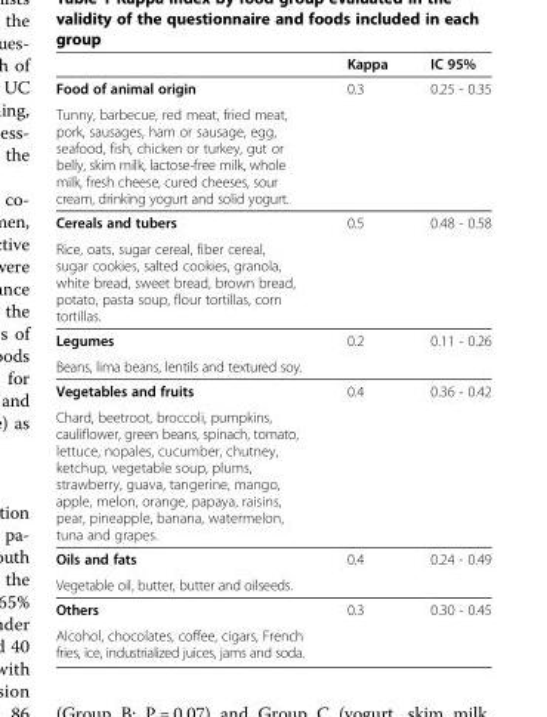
<table><thead><tr><td></td><td>Kappa</td><td>IC 95%</td></tr></thead><tbody><tr><td>Food of animal origin</td><td>0.3</td><td>0.25 - 0.35</td></tr><tr><td colspan="3">Tunny, barbecue, red meat, fried meat, pork, sausages, ham or sausage, egg, seafood, fish, chicken or turkey, gut or belly, skim milk, lactose-free milk, whole milk, fresh cheese, cured cheeses, sour cream, drinking yogurt and solid yogurt.</td></tr><tr><td>Cereals and tubers</td><td>0.5</td><td>0.48 - 0.58</td></tr><tr><td colspan="3">Rice, oats, sugar cereal, fiber cereal, sugar cookies, salted cookies, granola, white bread, sweet bread, brown bread, potato, pasta soup, flour tortillas, corn tortillas.</td></tr><tr><td>Legumes</td><td>0.2</td><td>0.11 - 0.26</td></tr><tr><td colspan="3">Beans, lima beans, lentils and textured soy.</td></tr><tr><td>Vegetables and fruits</td><td>0.4</td><td>0.36 - 0.42</td></tr><tr><td colspan="3">Chard, beetroot, broccoli, pumpkins, cauliflower, green beans, spinach, tomato, lettuce, nopales, cucumber, chutney, ketchup, vegetable soup, plums, strawberry, guava, tangerine, mango, apple, melon, orange, papaya, raisins, pear, pineapple, banana, watermelon, tuna and grapes.</td></tr><tr><td>Oils and fats</td><td>0.4</td><td>0.24 - 0.49</td></tr><tr><td colspan="3">Vegetable oil, butter, butter and oilseeds.</td></tr><tr><td>Others</td><td>0.3</td><td>0.30 - 0.45</td></tr><tr><td>Alcohol, chocolates, coffee, cigars, French fries, ice, industrialized juices, jams and soda.</td><td></td><td></td></tr></tbody></table>